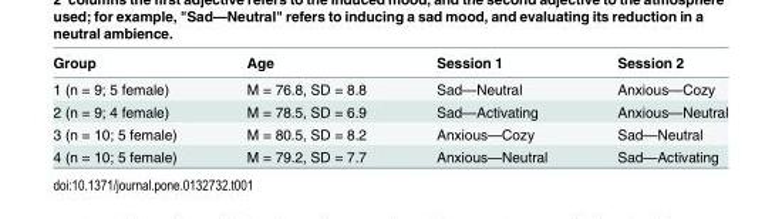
<table><thead><tr><td>Group</td><td>Age</td><td>Session 1</td><td>Session 2</td></tr></thead><tbody><tr><td>1 (n = 9; 5 female)</td><td>M = 76.8, SD = 8.8</td><td>Sad—Neutral</td><td>Anxious—Cozy</td></tr><tr><td>2 (n = 9; 4 female)</td><td>M = 78.5, SD = 6.9</td><td>Sad—Activating</td><td>Anxious—Neutral</td></tr><tr><td>3 (n = 10; 5 female)</td><td>M = 80.5, SD = 8.2</td><td>Anxious—Cozy</td><td>Sad—Neutral</td></tr><tr><td>4 (n = 10; 5 female)</td><td>M = 79.2, SD = 7.7</td><td>Anxious—Neutral</td><td>Sad—Activating</td></tr></tbody></table>